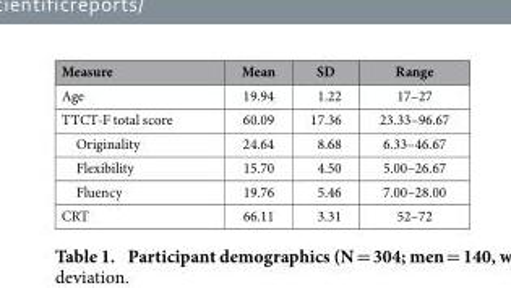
<table><thead><tr><td>Measure</td><td>Mean</td><td>SD</td><td>Range</td></tr></thead><tbody><tr><td>Age</td><td>19.94</td><td>1.22</td><td>17–27</td></tr><tr><td>TTCT-F total score</td><td>60.09</td><td>17.36</td><td>23.33–96.67</td></tr><tr><td>Originality</td><td>24.64</td><td>8.68</td><td>6.33–46.67</td></tr><tr><td>Flexibility</td><td>15.70</td><td>4.50</td><td>5.00–26.67</td></tr><tr><td>Fluency</td><td>19.76</td><td>5.46</td><td>7.00–28.00</td></tr><tr><td>CRT</td><td>66.11</td><td>3.31</td><td>52–72</td></tr></tbody></table>